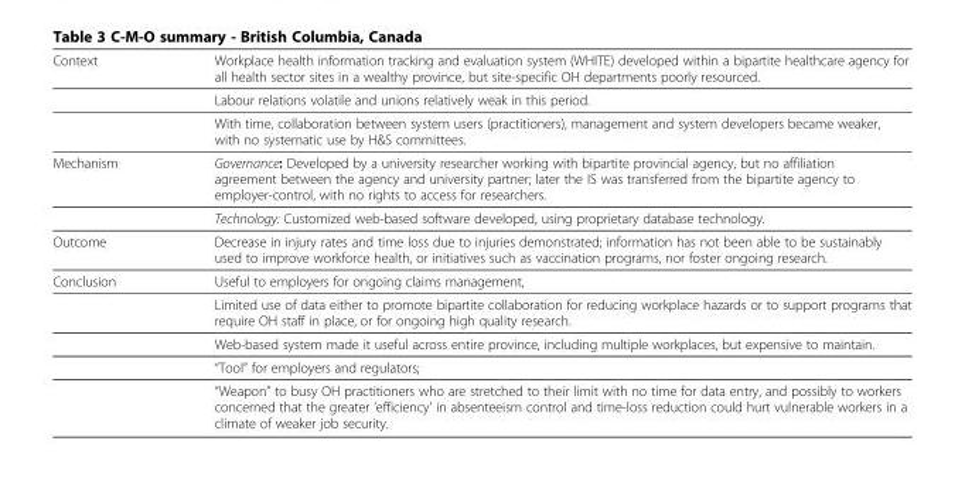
<table><thead><tr><td>Context</td><td>Workplace health information tracking and evaluation system (WHITE) developed within a bipartite healthcare agency for all health sector sites in a wealthy province, but site-specific OH departments poorly resourced.</td></tr></thead><tbody><tr><td></td><td>Labour relations volatile and unions relatively weak in this period.</td></tr><tr><td></td><td>With time, collaboration between system users (practitioners), management and system developers became weaker, with no systematic use by H&amp;S committees.</td></tr><tr><td rowspan="2">Mechanism</td><td>Governance: Developed by a university researcher working with bipartite provincial agency, but no affiliation agreement between the agency and university partner; later the IS was transferred from the bipartite agency to employer-control, with no rights to access for researchers.</td></tr><tr><td>Technology: Customized web-based software developed, using proprietary database technology.</td></tr><tr><td>Outcome</td><td>Decrease in injury rates and time loss due to injuries demonstrated; information has not been able to be sustainably used to improve workforce health, or initiatives such as vaccination programs, nor foster ongoing research.</td></tr><tr><td rowspan="5">Conclusion</td><td>Useful to employers for ongoing claims management,</td></tr><tr><td>Limited use of data either to promote bipartite collaboration for reducing workplace hazards or to support programs that require OH staff in place, or for ongoing high quality research.</td></tr><tr><td>Web-based system made it useful across entire province, including multiple workplaces, but expensive to maintain.</td></tr><tr><td>“Tool” for employers and regulators;</td></tr><tr><td>“Weapon” to busy OH practitioners who are stretched to their limit with no time for data entry, and possibly to workers concerned that the greater ‘efficiency’ in absenteeism control and time-loss reduction could hurt vulnerable workers in a climate of weaker job security.</td></tr></tbody></table>